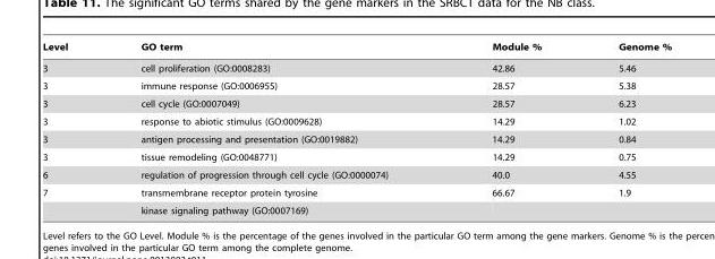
<table><thead><tr><td>Level</td><td>GO term</td><td>Module %</td><td>Genome %</td></tr></thead><tbody><tr><td>3</td><td>cell proliferation (GO:0008283)</td><td>42.86</td><td>5.46</td></tr><tr><td>3</td><td>immune response (GO:0006955)</td><td>28.57</td><td>5.38</td></tr><tr><td>3</td><td>cell cycle (GO:0007049)</td><td>28.57</td><td>6.23</td></tr><tr><td>3</td><td>response to abiotic stimulus (GO:0009628)</td><td>14.29</td><td>1.02</td></tr><tr><td>3</td><td>antigen processing and presentation (GO:0019882)</td><td>14.29</td><td>0.84</td></tr><tr><td>3</td><td>tissue remodeling (GO:0048771)</td><td>14.29</td><td>0.75</td></tr><tr><td>6</td><td>regulation of progression through cell cycle (GO:0000074)</td><td>40.0</td><td>4.55</td></tr><tr><td rowspan="2">7</td><td>transmembrane receptor protein tyrosine</td><td>66.67</td><td>1.9</td></tr><tr><td>kinase signaling pathway (GO:0007169)</td><td></td><td></td></tr></tbody></table>